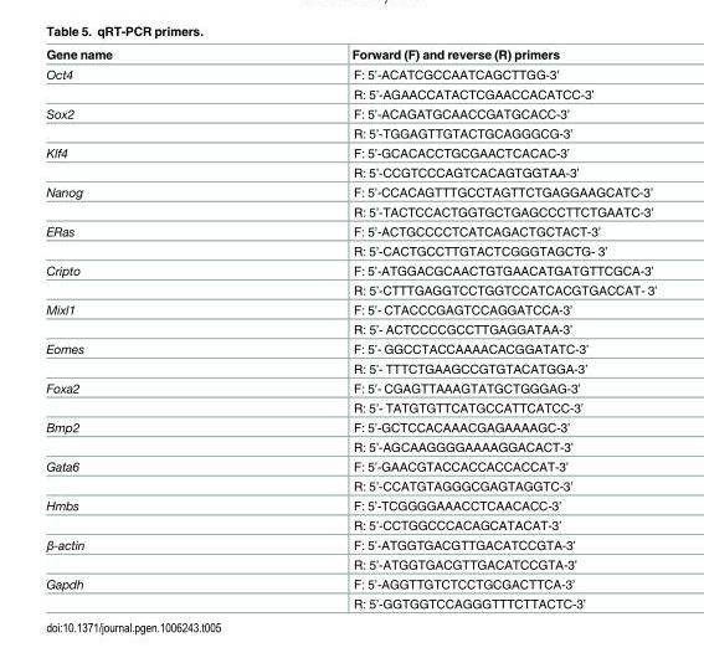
<table><thead><tr><td>Gene name</td><td>Forward (F) and reverse (R) primers</td></tr></thead><tbody><tr><td rowspan="2">Oct4</td><td>F: 5’‐ACATCGCCAATCAGCTTGG‐3’</td></tr><tr><td>R: 5’‐AGAACCATACTCGAACCACATCC‐3’</td></tr><tr><td rowspan="2">Sox2</td><td>F: 5’‐ACAGATGCAACCGATGCACC‐3’</td></tr><tr><td>R: 5’‐TGGAGTTGTACTGCAGGGCG‐3’</td></tr><tr><td rowspan="2">Klf4</td><td>F: 5’‐GCACACCTGCGAACTCACAC‐3’</td></tr><tr><td>R: 5’‐CCGTCCCAGTCACAGTGGTAA‐3’</td></tr><tr><td rowspan="2">Nanog</td><td>F: 5’‐CCACAGTTTGCCTAGTTCTGAGGAAGCATC‐3’</td></tr><tr><td>R: 5’‐TACTCCACTGGTGCTGAGCCCTTCTGAATC‐3’</td></tr><tr><td rowspan="2">ERas</td><td>F: 5’‐ACTGCCCCTCATCAGACTGCTACT‐3’</td></tr><tr><td>R: 5’‐CACTGCCTTGTACTCGGGTAGCTG‐ 3’</td></tr><tr><td rowspan="2">Cripto</td><td>F: 5’‐ATGGACGCAACTGTGAACATGATGTTCGCA‐3’</td></tr><tr><td>R: 5’‐CTTTGAGGTCCTGGTCCATCACGTGACCAT‐ 3’</td></tr><tr><td rowspan="2">Mixl1</td><td>F: 5’‐ CTACCCGAGTCCAGGATCCA‐3’</td></tr><tr><td>R: 5’‐ ACTCCCCGCCTTGAGGATAA‐3’</td></tr><tr><td rowspan="2">Eomes</td><td>F: 5’‐ GGCCTACCAAAACACGGATATC‐3’</td></tr><tr><td>R: 5’‐ TTTCTGAAGCCGTGTACATGGA‐3’</td></tr><tr><td rowspan="2">Foxa2</td><td>F: 5’‐ CGAGTTAAAGTATGCTGGGAG‐3’</td></tr><tr><td>R: 5’‐ TATGTGTTCATGCCATTCATCC‐3’</td></tr><tr><td rowspan="2">Bmp2</td><td>F: 5’‐GCTCCACAAACGAGAAAAGC‐3’</td></tr><tr><td>R: 5’‐AGCAAGGGGAAAAGGACACT‐3’</td></tr><tr><td rowspan="2">Gata6</td><td>F: 5’‐GAACGTACCACCACCACCAT‐3’</td></tr><tr><td>R: 5’‐CCATGTAGGGCGAGTAGGTC‐3’</td></tr><tr><td rowspan="2">Hmbs</td><td>F: 5’‐TCGGGGAAACCTCAACACC‐3’</td></tr><tr><td>R: 5’‐CCTGGCCCACAGCATACAT‐3’</td></tr><tr><td rowspan="2">β‐actin</td><td>F: 5’‐ATGGTGACGTTGACATCCGTA‐3’</td></tr><tr><td>R: 5’‐ATGGTGACGTTGACATCCGTA‐3’</td></tr><tr><td rowspan="2">Gapdh</td><td>F: 5’‐AGGTTGTCTCCTGCGACTTCA‐3’</td></tr><tr><td>R: 5’‐GGTGGTCCAGGGTTTCTTACTC‐3’</td></tr></tbody></table>